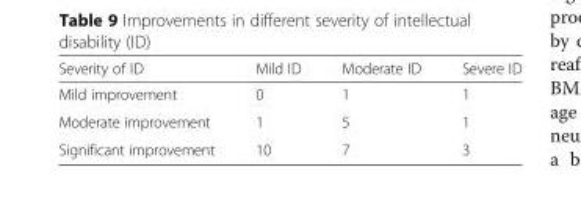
<table><thead><tr><td>Severity of ID</td><td>Mild ID</td><td>Moderate ID</td><td>Severe ID</td></tr></thead><tbody><tr><td>Mild improvement</td><td>0</td><td>1</td><td>1</td></tr><tr><td>Moderate improvement</td><td>1</td><td>5</td><td>1</td></tr><tr><td>Significant improvement</td><td>10</td><td>7</td><td>3</td></tr></tbody></table>